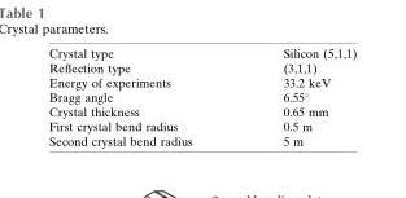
<table><tbody><tr><td>Crystal type</td><td>Silicon (5,1,1)</td></tr><tr><td>Reflection type</td><td>(3,1,1)</td></tr><tr><td>Energy of experiments</td><td>33.2 keV</td></tr><tr><td>Bragg angle</td><td>6.55°</td></tr><tr><td>Crystal thickness</td><td>0.65 mm</td></tr><tr><td>First crystal bend radius</td><td>0.5 m</td></tr><tr><td>Second crystal bend radius</td><td>5 m</td></tr></tbody></table>